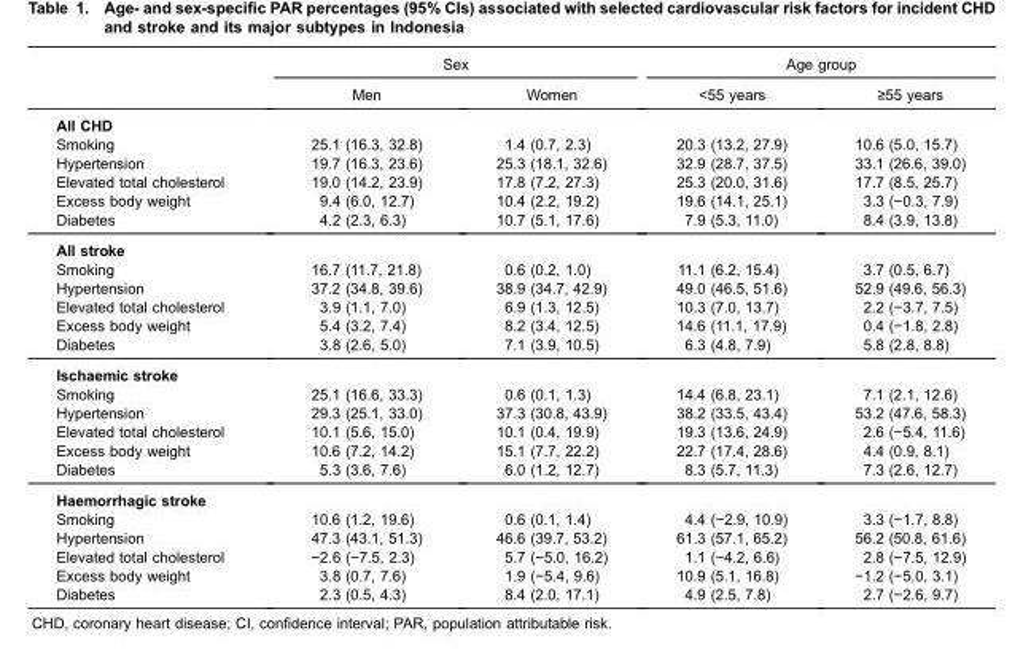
<table><thead><tr><td rowspan="2"></td><td colspan="2">Sex</td><td colspan="2">Age group</td></tr><tr><td>Men</td><td>Women</td><td>&lt;55 years</td><td>≥55 years</td></tr></thead><tbody><tr><td colspan="5">All CHD</td></tr><tr><td>Smoking</td><td>25.1 (16.3, 32.8)</td><td>1.4 (0.7, 2.3)</td><td>20.3 (13.2, 27.9)</td><td>10.6 (5.0, 15.7)</td></tr><tr><td>Hypertension</td><td>19.7 (16.3, 23.6)</td><td>25.3 (18.1, 32.6)</td><td>32.9 (28.7, 37.5)</td><td>33.1 (26.6, 39.0)</td></tr><tr><td>Elevated total cholesterol</td><td>19.0 (14.2, 23.9)</td><td>17.8 (7.2, 27.3)</td><td>25.3 (20.0, 31.6)</td><td>17.7 (8.5, 25.7)</td></tr><tr><td>Excess body weight</td><td>9.4 (6.0, 12.7)</td><td>10.4 (2.2, 19.2)</td><td>19.6 (14.1, 25.1)</td><td>3.3 (−0.3, 7.9)</td></tr><tr><td>Diabetes</td><td>4.2 (2.3, 6.3)</td><td>10.7 (5.1, 17.6)</td><td>7.9 (5.3, 11.0)</td><td>8.4 (3.9, 13.8)</td></tr><tr><td colspan="5">All stroke</td></tr><tr><td>Smoking</td><td>16.7 (11.7, 21.8)</td><td>0.6 (0.2, 1.0)</td><td>11.1 (6.2, 15.4)</td><td>3.7 (0.5, 6.7)</td></tr><tr><td>Hypertension</td><td>37.2 (34.8, 39.6)</td><td>38.9 (34.7, 42.9)</td><td>49.0 (46.5, 51.6)</td><td>52.9 (49.6, 56.3)</td></tr><tr><td>Elevated total cholesterol</td><td>3.9 (1.1, 7.0)</td><td>6.9 (1.3, 12.5)</td><td>10.3 (7.0, 13.7)</td><td>2.2 (−3.7, 7.5)</td></tr><tr><td>Excess body weight</td><td>5.4 (3.2, 7.4)</td><td>8.2 (3.4, 12.5)</td><td>14.6 (11.1, 17.9)</td><td>0.4 (−1.8, 2.8)</td></tr><tr><td>Diabetes</td><td>3.8 (2.6, 5.0)</td><td>7.1 (3.9, 10.5)</td><td>6.3 (4.8, 7.9)</td><td>5.8 (2.8, 8.8)</td></tr><tr><td colspan="5">Ischaemic stroke</td></tr><tr><td>Smoking</td><td>25.1 (16.6, 33.3)</td><td>0.6 (0.1, 1.3)</td><td>14.4 (6.8, 23.1)</td><td>7.1 (2.1, 12.6)</td></tr><tr><td>Hypertension</td><td>29.3 (25.1, 33.0)</td><td>37.3 (30.8, 43.9)</td><td>38.2 (33.5, 43.4)</td><td>53.2 (47.6, 58.3)</td></tr><tr><td>Elevated total cholesterol</td><td>10.1 (5.6, 15.0)</td><td>10.1 (0.4, 19.9)</td><td>19.3 (13.6, 24.9)</td><td>2.6 (−5.4, 11.6)</td></tr><tr><td>Excess body weight</td><td>10.6 (7.2, 14.2)</td><td>15.1 (7.7, 22.2)</td><td>22.7 (17.4, 28.6)</td><td>4.4 (0.9, 8.1)</td></tr><tr><td>Diabetes</td><td>5.3 (3.6, 7.6)</td><td>6.0 (1.2, 12.7)</td><td>8.3 (5.7, 11.3)</td><td>7.3 (2.6, 12.7)</td></tr><tr><td colspan="5">Haemorrhagic stroke</td></tr><tr><td>Smoking</td><td>10.6 (1.2, 19.6)</td><td>0.6 (0.1, 1.4)</td><td>4.4 (−2.9, 10.9)</td><td>3.3 (−1.7, 8.8)</td></tr><tr><td>Hypertension</td><td>47.3 (43.1, 51.3)</td><td>46.6 (39.7, 53.2)</td><td>61.3 (57.1, 65.2)</td><td>56.2 (50.8, 61.6)</td></tr><tr><td>Elevated total cholesterol</td><td>−2.6 (−7.5, 2.3)</td><td>5.7 (−5.0, 16.2)</td><td>1.1 (−4.2, 6.6)</td><td>2.8 (−7.5, 12.9)</td></tr><tr><td>Excess body weight</td><td>3.8 (0.7, 7.6)</td><td>1.9 (−5.4, 9.6)</td><td>10.9 (5.1, 16.8)</td><td>−1.2 (−5.0, 3.1)</td></tr><tr><td>Diabetes</td><td>2.3 (0.5, 4.3)</td><td>8.4 (2.0, 17.1)</td><td>4.9 (2.5, 7.8)</td><td>2.7 (−2.6, 9.7)</td></tr></tbody></table>